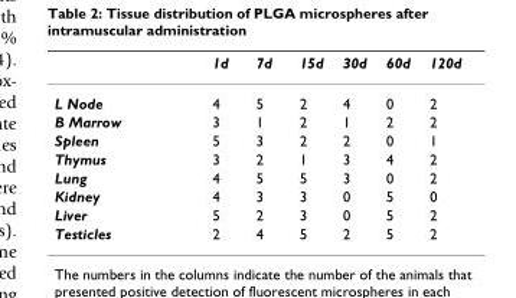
<table><thead><tr><td></td><td>1d</td><td>7d</td><td>15d</td><td>30d</td><td>60d</td><td>120d</td></tr></thead><tbody><tr><td>L Node</td><td>4</td><td>5</td><td>2</td><td>4</td><td>0</td><td>2</td></tr><tr><td>B Marrow</td><td>3</td><td>1</td><td>2</td><td>1</td><td>2</td><td>2</td></tr><tr><td>Spleen</td><td>5</td><td>3</td><td>2</td><td>2</td><td>0</td><td>1</td></tr><tr><td>Thymus</td><td>3</td><td>2</td><td>1</td><td>3</td><td>4</td><td>2</td></tr><tr><td>Lung</td><td>4</td><td>5</td><td>5</td><td>3</td><td>0</td><td>2</td></tr><tr><td>Kidney</td><td>4</td><td>3</td><td>3</td><td>0</td><td>5</td><td>0</td></tr><tr><td>Liver</td><td>5</td><td>2</td><td>3</td><td>0</td><td>5</td><td>2</td></tr><tr><td>Testicles</td><td>2</td><td>4</td><td>5</td><td>2</td><td>5</td><td>2</td></tr></tbody></table>